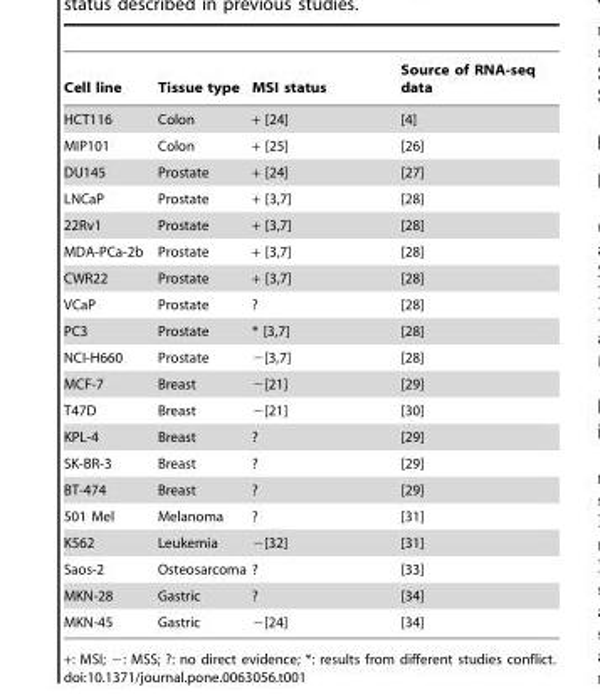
<table><thead><tr><td>Cell line</td><td>Tissue type</td><td>MSI status</td><td>Source of RNA-seq data</td></tr></thead><tbody><tr><td>HCT116</td><td>Colon</td><td>+ [24]</td><td>[4]</td></tr><tr><td>MIP101</td><td>Colon</td><td>+ [25]</td><td>[26]</td></tr><tr><td>DU145</td><td>Prostate</td><td>+ [24]</td><td>[27]</td></tr><tr><td>LNCaP</td><td>Prostate</td><td>+ [3,7]</td><td>[28]</td></tr><tr><td>22Rv1</td><td>Prostate</td><td>+ [3,7]</td><td>[28]</td></tr><tr><td>MDA-PCa-2b</td><td>Prostate</td><td>+ [3,7]</td><td>[28]</td></tr><tr><td>CWR22</td><td>Prostate</td><td>+ [3,7]</td><td>[28]</td></tr><tr><td>VCaP</td><td>Prostate</td><td>?</td><td>[28]</td></tr><tr><td>PC3</td><td>Prostate</td><td>* [3,7]</td><td>[28]</td></tr><tr><td>NCI-H660</td><td>Prostate</td><td>2[3,7]</td><td>[28]</td></tr><tr><td>MCF-7</td><td>Breast</td><td>−[21]</td><td>[29]</td></tr><tr><td>T47D</td><td>Breast</td><td>−[21]</td><td>[30]</td></tr><tr><td>KPL-4</td><td>Breast</td><td>?</td><td>[29]</td></tr><tr><td>SK-BR-3</td><td>Breast</td><td>?</td><td>[29]</td></tr><tr><td>BT-474</td><td>Breast</td><td>?</td><td>[29]</td></tr><tr><td>501 Mel</td><td>Melanoma</td><td>?</td><td>[31]</td></tr><tr><td>K562</td><td>Leukemia</td><td>−[32]</td><td>[31]</td></tr><tr><td>Saos-2</td><td>Osteosarcoma</td><td>?</td><td>[33]</td></tr><tr><td>MKN-28</td><td>Gastric</td><td>?</td><td>[34]</td></tr><tr><td>MKN-45</td><td>Gastric</td><td>−[24]</td><td>[34]</td></tr></tbody></table>